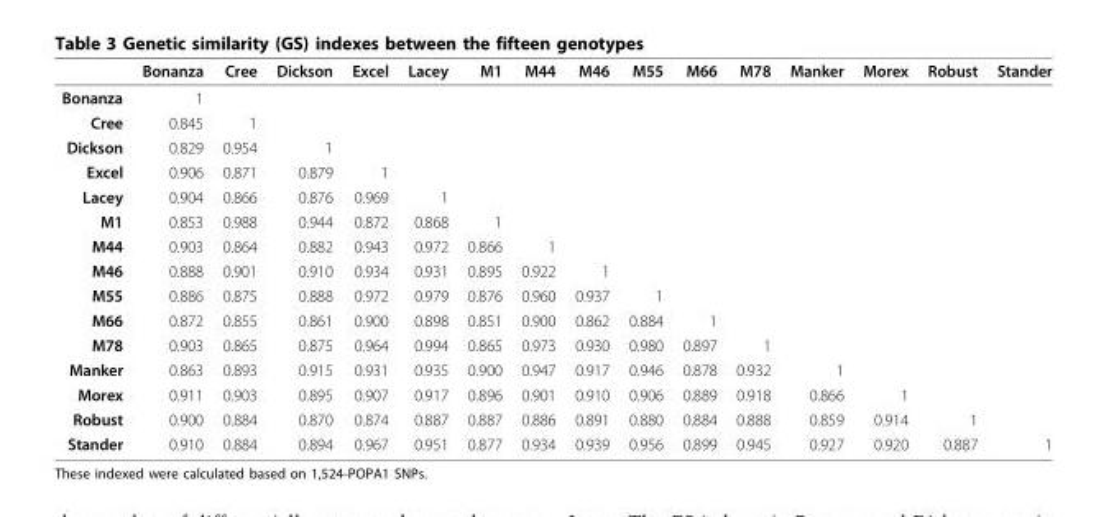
<table><thead><tr><td></td><td>Bonanza</td><td>Cree</td><td>Dickson</td><td>Excel</td><td>Lacey</td><td>M1</td><td>M44</td><td>M46</td><td>M55</td><td>M66</td><td>M78</td><td>Manker</td><td>Morex</td><td>Robust</td><td>Stander</td></tr></thead><tbody><tr><td>Bonanza</td><td>1</td><td></td><td></td><td></td><td></td><td></td><td></td><td></td><td></td><td></td><td></td><td></td><td></td><td></td><td></td></tr><tr><td>Cree</td><td>0.845</td><td>1</td><td></td><td></td><td></td><td></td><td></td><td></td><td></td><td></td><td></td><td></td><td></td><td></td><td></td></tr><tr><td>Dickson</td><td>0.829</td><td>0.954</td><td>1</td><td></td><td></td><td></td><td></td><td></td><td></td><td></td><td></td><td></td><td></td><td></td><td></td></tr><tr><td>Excel</td><td>0.906</td><td>0.871</td><td>0.879</td><td>1</td><td></td><td></td><td></td><td></td><td></td><td></td><td></td><td></td><td></td><td></td><td></td></tr><tr><td>Lacey</td><td>0.904</td><td>0.866</td><td>0.876</td><td>0.969</td><td>1</td><td></td><td></td><td></td><td></td><td></td><td></td><td></td><td></td><td></td><td></td></tr><tr><td>M1</td><td>0.853</td><td>0.988</td><td>0.944</td><td>0.872</td><td>0.868</td><td>1</td><td></td><td></td><td></td><td></td><td></td><td></td><td></td><td></td><td></td></tr><tr><td>M44</td><td>0.903</td><td>0.864</td><td>0.882</td><td>0.943</td><td>0.972</td><td>0.866</td><td>1</td><td></td><td></td><td></td><td></td><td></td><td></td><td></td><td></td></tr><tr><td>M46</td><td>0.888</td><td>0.901</td><td>0.910</td><td>0.934</td><td>0.931</td><td>0.895</td><td>0.922</td><td>1</td><td></td><td></td><td></td><td></td><td></td><td></td><td></td></tr><tr><td>M55</td><td>0.886</td><td>0.875</td><td>0.888</td><td>0.972</td><td>0.979</td><td>0.876</td><td>0.960</td><td>0.937</td><td>1</td><td></td><td></td><td></td><td></td><td></td><td></td></tr><tr><td>M66</td><td>0.872</td><td>0.855</td><td>0.861</td><td>0.900</td><td>0.898</td><td>0.851</td><td>0.900</td><td>0.862</td><td>0.884</td><td>1</td><td></td><td></td><td></td><td></td><td></td></tr><tr><td>M78</td><td>0.903</td><td>0.865</td><td>0.875</td><td>0.964</td><td>0.994</td><td>0.865</td><td>0.973</td><td>0.930</td><td>0.980</td><td>0.897</td><td>1</td><td></td><td></td><td></td><td></td></tr><tr><td>Manker</td><td>0.863</td><td>0.893</td><td>0.915</td><td>0.931</td><td>0.935</td><td>0.900</td><td>0.947</td><td>0.917</td><td>0.946</td><td>0.878</td><td>0.932</td><td>1</td><td></td><td></td><td></td></tr><tr><td>Morex</td><td>0.911</td><td>0.903</td><td>0.895</td><td>0.907</td><td>0.917</td><td>0.896</td><td>0.901</td><td>0.910</td><td>0.906</td><td>0.889</td><td>0.918</td><td>0.866</td><td>1</td><td></td><td></td></tr><tr><td>Robust</td><td>0.900</td><td>0.884</td><td>0.870</td><td>0.874</td><td>0.887</td><td>0.887</td><td>0.886</td><td>0.891</td><td>0.880</td><td>0.884</td><td>0.888</td><td>0.859</td><td>0.914</td><td>1</td><td></td></tr><tr><td>Stander</td><td>0.910</td><td>0.884</td><td>0.894</td><td>0.967</td><td>0.951</td><td>0.877</td><td>0.934</td><td>0.939</td><td>0.956</td><td>0.899</td><td>0.945</td><td>0.927</td><td>0.920</td><td>0.887</td><td>1</td></tr></tbody></table>